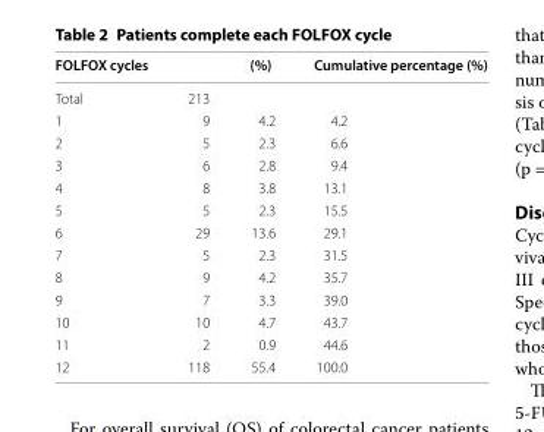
<table><thead><tr><td>FOLFOX cycles</td><td></td><td>(%)</td><td>Cumulative percentage (%)</td></tr></thead><tbody><tr><td>Total</td><td>213</td><td></td><td></td></tr><tr><td>1</td><td>9</td><td>4.2</td><td>4.2</td></tr><tr><td>2</td><td>5</td><td>2.3</td><td>6.6</td></tr><tr><td>3</td><td>6</td><td>2.8</td><td>9.4</td></tr><tr><td>4</td><td>8</td><td>3.8</td><td>13.1</td></tr><tr><td>5</td><td>5</td><td>2.3</td><td>15.5</td></tr><tr><td>6</td><td>29</td><td>13.6</td><td>29.1</td></tr><tr><td>7</td><td>5</td><td>2.3</td><td>31.5</td></tr><tr><td>8</td><td>9</td><td>4.2</td><td>35.7</td></tr><tr><td>9</td><td>7</td><td>3.3</td><td>39.0</td></tr><tr><td>10</td><td>10</td><td>4.7</td><td>43.7</td></tr><tr><td>11</td><td>2</td><td>0.9</td><td>44.6</td></tr><tr><td>12</td><td>118</td><td>55.4</td><td>100.0</td></tr></tbody></table>